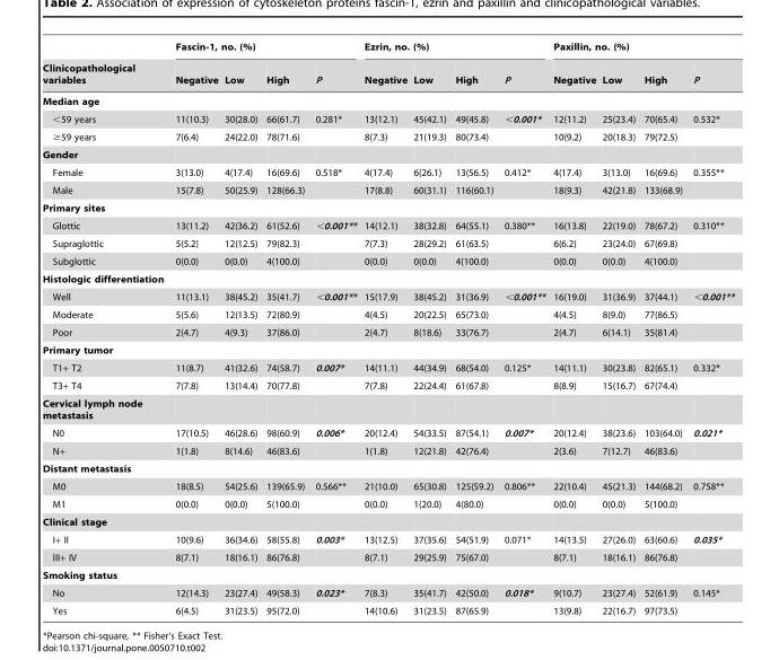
<table><thead><tr><td rowspan="2">Clinicopathological variables</td><td colspan="4">Fascin-1, no. (%)</td><td colspan="4">Ezrin, no. (%)</td><td colspan="4">Paxillin, no. (%)</td></tr><tr><td>Negative</td><td>Low</td><td>High</td><td>P</td><td>Negative</td><td>Low</td><td>High</td><td>P</td><td>Negative</td><td>Low</td><td>High</td><td>P</td></tr></thead><tbody><tr><td colspan="13">Median age</td></tr><tr><td>&lt;59 years</td><td>11(10.3)</td><td>30(28.0)</td><td>66(61.7)</td><td>0.281*</td><td>13(12.1)</td><td>45(42.1)</td><td>49(45.8)</td><td>&lt;0.001*</td><td>12(11.2)</td><td>25(23.4)</td><td>70(65.4)</td><td>0.532*</td></tr><tr><td>≥59 years</td><td>7(6.4)</td><td>24(22.0)</td><td>78(71.6)</td><td></td><td>8(7.3)</td><td>21(19.3)</td><td>80(73.4)</td><td></td><td>10(9.2)</td><td>20(18.3)</td><td>79(72.5)</td><td></td></tr><tr><td colspan="13">Gender</td></tr><tr><td>Female</td><td>3(13.0)</td><td>4(17.4)</td><td>16(69.6)</td><td>0.518*</td><td>4(17.4)</td><td>6(26.1)</td><td>13(56.5)</td><td>0.412*</td><td>4(17.4)</td><td>3(13.0)</td><td>16(69.6)</td><td>0.355**</td></tr><tr><td>Male</td><td>15(7.8)</td><td>50(25.9)</td><td>128(66.3)</td><td></td><td>17(8.8)</td><td>60(31.1)</td><td>116(60.1)</td><td></td><td>18(9.3)</td><td>42(21.8)</td><td>133(68.9)</td><td></td></tr><tr><td colspan="13">Primary sites</td></tr><tr><td>Glottic</td><td>13(11.2)</td><td>42(36.2)</td><td>61(52.6)</td><td>&lt;0.001**</td><td>14(12.1)</td><td>38(32.8)</td><td>64(55.1)</td><td>0.380**</td><td>16(13.8)</td><td>22(19.0)</td><td>78(67.2)</td><td>0.310**</td></tr><tr><td>Supraglottic</td><td>5(5.2)</td><td>12(12.5)</td><td>79(82.3)</td><td></td><td>7(7.3)</td><td>28(29.2)</td><td>61(63.5)</td><td></td><td>6(6.2)</td><td>23(24.0)</td><td>67(69.8)</td><td></td></tr><tr><td>Subglottic</td><td>0(0.0)</td><td>0(0.0)</td><td>4(100.0)</td><td></td><td>0(0.0)</td><td>0(0.0)</td><td>4(100.0)</td><td></td><td>0(0.0)</td><td>0(0.0)</td><td>4(100.0)</td><td></td></tr><tr><td colspan="13">Histologic differentiation</td></tr><tr><td>Well</td><td>11(13.1)</td><td>38(45.2)</td><td>35(41.7)</td><td>&lt;0.001**</td><td>15(17.9)</td><td>38(45.2)</td><td>31(36.9)</td><td>&lt;0.001**</td><td>16(19.0)</td><td>31(36.9)</td><td>37(44.1)</td><td>&lt;0.001**</td></tr><tr><td>Moderate</td><td>5(5.6)</td><td>12(13.5)</td><td>72(80.9)</td><td></td><td>4(4.5)</td><td>20(22.5)</td><td>65(73.0)</td><td></td><td>4(4.5)</td><td>8(9.0)</td><td>77(86.5)</td><td></td></tr><tr><td>Poor</td><td>2(4.7)</td><td>4(9.3)</td><td>37(86.0)</td><td></td><td>2(4.7)</td><td>8(18.6)</td><td>33(76.7)</td><td></td><td>2(4.7)</td><td>6(14.1)</td><td>35(81.4)</td><td></td></tr><tr><td colspan="13">Primary tumor</td></tr><tr><td>T1+ T2</td><td>11(8.7)</td><td>41(32.6)</td><td>74(58.7)</td><td>0.007*</td><td>14(11.1)</td><td>44(34.9)</td><td>68(54.0)</td><td>0.125*</td><td>14(11.1)</td><td>30(23.8)</td><td>82(65.1)</td><td>0.332*</td></tr><tr><td>T3+ T4</td><td>7(7.8)</td><td>13(14.4)</td><td>70(77.8)</td><td></td><td>7(7.8)</td><td>22(24.4)</td><td>61(67.8)</td><td></td><td>8(8.9)</td><td>15(16.7)</td><td>67(74.4)</td><td></td></tr><tr><td colspan="13">Cervical lymph node metastasis</td></tr><tr><td>N0</td><td>17(10.5)</td><td>46(28.6)</td><td>98(60.9)</td><td>0.006*</td><td>20(12.4)</td><td>54(33.5)</td><td>87(54.1)</td><td>0.007*</td><td>20(12.4)</td><td>38(23.6)</td><td>103(64.0)</td><td>0.021*</td></tr><tr><td>N+</td><td>1(1.8)</td><td>8(14.6)</td><td>46(83.6)</td><td></td><td>1(1.8)</td><td>12(21.8)</td><td>42(76.4)</td><td></td><td>2(3.6)</td><td>7(12.7)</td><td>46(83.6)</td><td></td></tr><tr><td colspan="13">Distant metastasis</td></tr><tr><td>M0</td><td>18(8.5)</td><td>54(25.6)</td><td>139(65.9)</td><td>0.566**</td><td>21(10.0)</td><td>65(30.8)</td><td>125(59.2)</td><td>0.806**</td><td>22(10.4)</td><td>45(21.3)</td><td>144(68.2)</td><td>0.758**</td></tr><tr><td>M1</td><td>0(0.0)</td><td>0(0.0)</td><td>5(100.0)</td><td></td><td>0(0.0)</td><td>1(20.0)</td><td>4(80.0)</td><td></td><td>0(0.0)</td><td>0(0.0)</td><td>5(100.0)</td><td></td></tr><tr><td colspan="13">Clinical stage</td></tr><tr><td>I+ II</td><td>10(9.6)</td><td>36(34.6)</td><td>58(55.8)</td><td>0.003*</td><td>13(12.5)</td><td>37(35.6)</td><td>54(51.9)</td><td>0.071*</td><td>14(13.5)</td><td>27(26.0)</td><td>63(60.6)</td><td>0.035*</td></tr><tr><td>III+ IV</td><td>8(7.1)</td><td>18(16.1)</td><td>86(76.8)</td><td></td><td>8(7.1)</td><td>29(25.9)</td><td>75(67.0)</td><td></td><td>8(7.1)</td><td>18(16.1)</td><td>86(76.8)</td><td></td></tr><tr><td colspan="13">Smoking status</td></tr><tr><td>No</td><td>12(14.3)</td><td>23(27.4)</td><td>49(58.3)</td><td>0.023*</td><td>7(8.3)</td><td>35(41.7)</td><td>42(50.0)</td><td>0.018*</td><td>9(10.7)</td><td>23(27.4)</td><td>52(61.9)</td><td>0.145*</td></tr><tr><td>Yes</td><td>6(4.5)</td><td>31(23.5)</td><td>95(72.0)</td><td></td><td>14(10.6)</td><td>31(23.5)</td><td>87(65.9)</td><td></td><td>13(9.8)</td><td>22(16.7)</td><td>97(73.5)</td><td></td></tr></tbody></table>